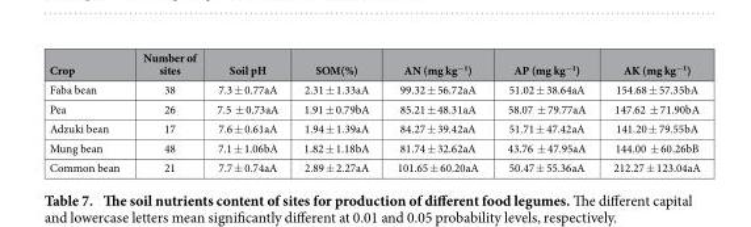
<table><thead><tr><td>Crop</td><td>Number of sites</td><td>Soil pH</td><td>SOM(%)</td><td>AN (mg kg<sup>−1</sup>)</td><td>AP (mg kg<sup>−1</sup>)</td><td>AK (mg kg<sup>−1</sup>)</td></tr></thead><tbody><tr><td>Faba bean</td><td>38</td><td>7.3 ± 0.77aA</td><td>2.31 ± 1.33aA</td><td>99.32 ± 56.72aA</td><td>51.02 ± 38.64aA</td><td>154.68 ± 57.35bA</td></tr><tr><td>Pea</td><td>26</td><td>7.5 ± 0.73aA</td><td>1.91 ± 0.79bA</td><td>85.21 ± 48.31aA</td><td>58.07 ± 79.77aA</td><td>147.62 ± 71.90bA</td></tr><tr><td>Adzuki bean</td><td>17</td><td>7.6 ± 0.61aA</td><td>1.94 ± 1.39aA</td><td>84.27 ± 39.42aA</td><td>51.71 ± 47.42aA</td><td>141.20 ± 79.55bA</td></tr><tr><td>Mung bean</td><td>48</td><td>7.1 ± 1.06bA</td><td>1.82 ± 1.18bA</td><td>81.74 ± 32.62aA</td><td>43.76 ± 47.95aA</td><td>144.00 ± 60.26bB</td></tr><tr><td>Common bean</td><td>21</td><td>7.7 ± 0.74aA</td><td>2.89 ± 2.27aA</td><td>101.65 ± 60.20aA</td><td>50.47 ± 55.36aA</td><td>212.27 ± 123.04aA</td></tr></tbody></table>